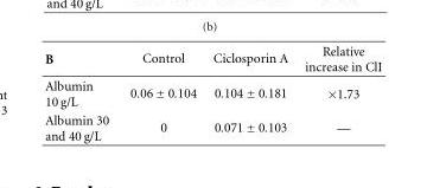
<table><thead><tr><td>B</td><td>Control</td><td>Ciclosporin A</td><td>Relative increase in ClI</td></tr></thead><tbody><tr><td>Albumin 10 g/L</td><td>0.06 ± 0.104</td><td>0.104 ± 0.181</td><td>×1.73</td></tr><tr><td>Albumin 30 and 40 g/L</td><td>0</td><td>0.071 ± 0.103</td><td>—</td></tr></tbody></table>